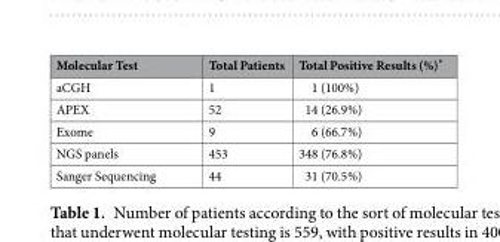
<table><thead><tr><td>Molecular Test</td><td>Total Patients</td><td>Total Positive Results (%)*</td></tr></thead><tbody><tr><td>aCGH</td><td>1</td><td>1 (100%)</td></tr><tr><td>APEX</td><td>52</td><td>14 (26.9%)</td></tr><tr><td>Exome</td><td>9</td><td>6 (66.7%)</td></tr><tr><td>NGS panels</td><td>453</td><td>348 (76.8%)</td></tr><tr><td>Sanger Sequencing</td><td>44</td><td>31 (70.5%)</td></tr></tbody></table>